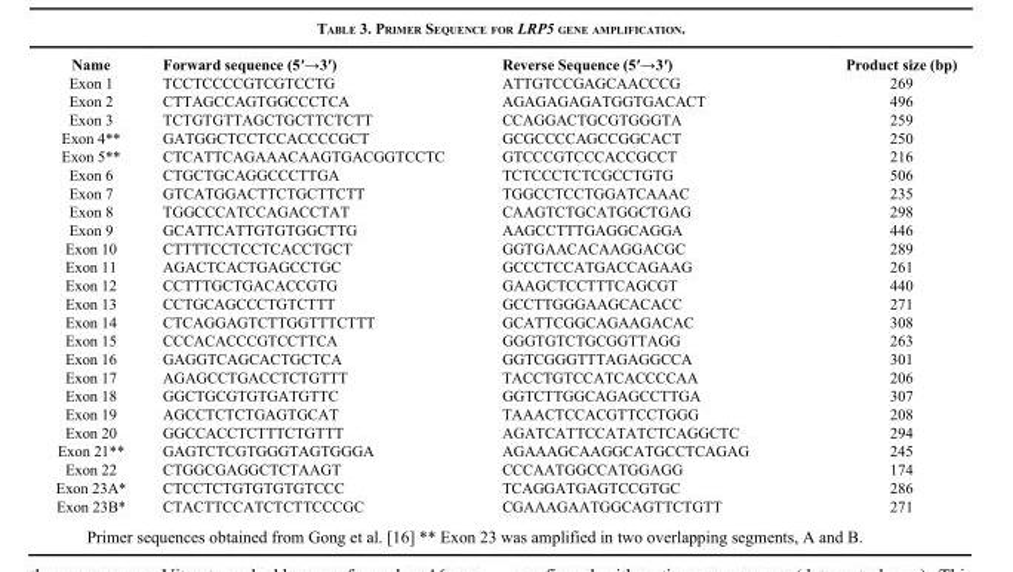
<table><thead><tr><td>Name</td><td>Forward sequence (5′→3′)</td><td>Reverse Sequence (5′→3′)</td><td>Product size (bp)</td></tr></thead><tbody><tr><td>Exon 1</td><td>TCCTCCCCGTCGTCCTG</td><td>ATTGTCCGAGCAACCCG</td><td>269</td></tr><tr><td>Exon 2</td><td>CTTAGCCAGTGGCCCTCA</td><td>AGAGAGAGATGGTGACACT</td><td>496</td></tr><tr><td>Exon 3</td><td>TCTGTGTTAGCTGCTTCTCTT</td><td>CCAGGACTGCGTGGGTA</td><td>259</td></tr><tr><td>Exon 4**</td><td>GATGGCTCCTCCACCCCGCT</td><td>GCGCCCCAGCCGGCACT</td><td>250</td></tr><tr><td>Exon 5**</td><td>CTCATTCAGAAACAAGTGACGGTCCTC</td><td>GTCCCGTCCCACCGCCT</td><td>216</td></tr><tr><td>Exon 6</td><td>CTGCTGCAGGCCCTTGA</td><td>TCTCCCTCTCGCCTGTG</td><td>506</td></tr><tr><td>Exon 7</td><td>GTCATGGACTTCTGCTTCTT</td><td>TGGCCTCCTGGATCAAAC</td><td>235</td></tr><tr><td>Exon 8</td><td>TGGCCCATCCAGACCTAT</td><td>CAAGTCTGCATGGCTGAG</td><td>298</td></tr><tr><td>Exon 9</td><td>GCATTCATTGTGTGGCTTG</td><td>AAGCCTTTGAGGCAGGA</td><td>446</td></tr><tr><td>Exon 10</td><td>CTTTTCCTCCTCACCTGCT</td><td>GGTGAACACAAGGACGC</td><td>289</td></tr><tr><td>Exon 11</td><td>AGACTCACTGAGCCTGC</td><td>GCCCTCCATGACCAGAAG</td><td>261</td></tr><tr><td>Exon 12</td><td>CCTTTGCTGACACCGTG</td><td>GAAGCTCCTTTCAGCGT</td><td>440</td></tr><tr><td>Exon 13</td><td>CCTGCAGCCCTGTCTTT</td><td>GCCTTGGGAAGCACACC</td><td>271</td></tr><tr><td>Exon 14</td><td>CTCAGGAGTCTTGGTTTCTTT</td><td>GCATTCGGCAGAAGACAC</td><td>308</td></tr><tr><td>Exon 15</td><td>CCCACACCCGTCCTTCA</td><td>GGGTGTCTGCGGTTAGG</td><td>263</td></tr><tr><td>Exon 16</td><td>GAGGTCAGCACTGCTCA</td><td>GGTCGGGTTTAGAGGCCA</td><td>301</td></tr><tr><td>Exon 17</td><td>AGAGCCTGACCTCTGTTT</td><td>TACCTGTCCATCACCCCAA</td><td>206</td></tr><tr><td>Exon 18</td><td>GGCTGCGTGTGATGTTC</td><td>GGTCTTGGCAGAGCCTTGA</td><td>307</td></tr><tr><td>Exon 19</td><td>AGCCTCTCTGAGTGCAT</td><td>TAAACTCCACGTTCCTGGG</td><td>208</td></tr><tr><td>Exon 20</td><td>GGCCACCTCTTTCTGTTT</td><td>AGATCATTCCATATCTCAGGCTC</td><td>294</td></tr><tr><td>Exon 21**</td><td>GAGTCTCGTGGGTAGTGGGA</td><td>AGAAAGCAAGGCATGCCTCAGAG</td><td>245</td></tr><tr><td>Exon 22</td><td>CTGGCGAGGCTCTAAGT</td><td>CCCAATGGCCATGGAGG</td><td>174</td></tr><tr><td>Exon 23A*</td><td>CTCCTCTGTGTGTGTCCC</td><td>TCAGGATGAGTCCGTGC</td><td>286</td></tr><tr><td>Exon 23B*</td><td>CTACTTCCATCTCTTCCCGC</td><td>CGAAAGAATGGCAGTTCTGTT</td><td>271</td></tr></tbody></table>